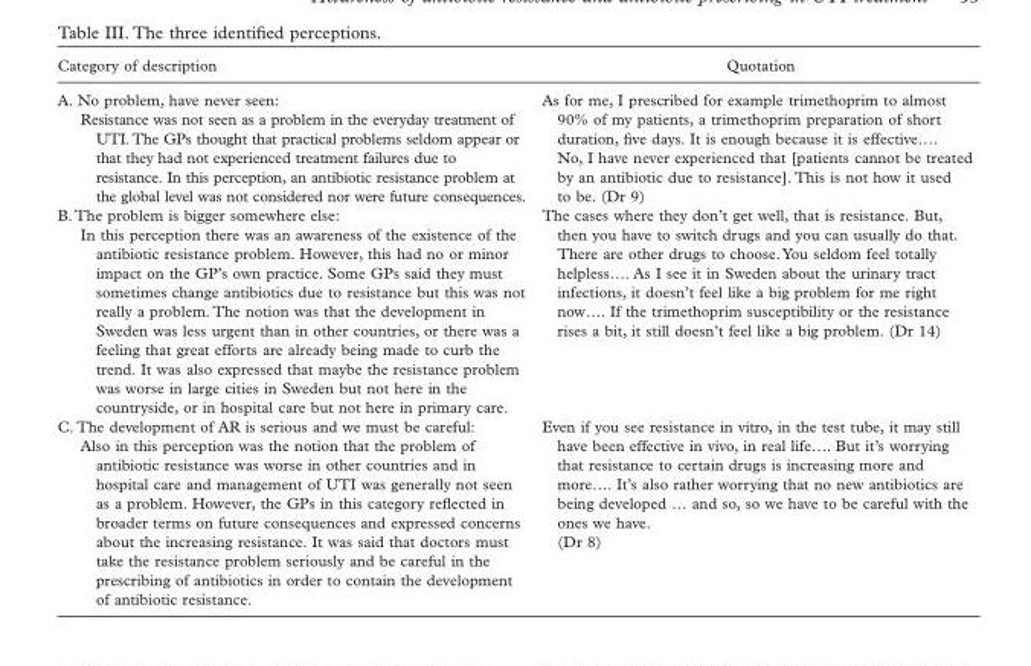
<table><thead><tr><td>Category of description</td><td>Quotation</td></tr></thead><tbody><tr><td>A. No problem, have never seen: Resistance was not seen as a problem in the everyday treatment of UTI. The GPs thought that practical problems seldom appear or that they had not experienced treatment failures due to resistance. In this perception, an antibiotic resistance problem at the global level was not considered nor were future consequences.</td><td>As for me, I prescribed for example trimethoprim to almost 90% of my patients, a trimethoprim preparation of short duration, fi ve days. It is enough because it is effective … . No, I have never experienced that [patients cannot be treated by an antibiotic due to resistance]. This is not how it used to be. (Dr 9)</td></tr><tr><td>B. The problem is bigger somewhere else: In this perception there was an awareness of the existence of the antibiotic resistance problem. However, this had no or minor impact on the GP ’ s own practice. Some GPs said they must sometimes change antibiotics due to resistance but this was not really a problem. The notion was that the development in Sweden was less urgent than in other countries, or there was a feeling that great efforts are already being made to curb the trend. It was also expressed that maybe the resistance problem was worse in large cities in Sweden but not here in the countryside, or in hospital care but not here in primary care.</td><td>The cases where they don ’ t get well, that is resistance. But, then you have to switch drugs and you can usually do that. There are other drugs to choose. You seldom feel totally helpless … . As I see it in Sweden about the urinary tract infections, it doesn ’ t feel like a big problem for me right now … . If the trimethoprim susceptibility or the resistance rises a bit, it still doesn ’ t feel like a big problem. (Dr 14)</td></tr><tr><td>C. The development of AR is serious and we must be careful: Also in this perception was the notion that the problem of antibiotic resistance was worse in other countries and in hospital care and management of UTI was generally not seen as a problem. However, the GPs in this category refl ected in broader terms on future consequences and expressed concerns about the increasing resistance. It was said that doctors must take the resistance problem seriously and be careful in the prescribing of antibiotics in order to contain the development of antibiotic resistance.</td><td>Even if you see resistance in vitro, in the test tube, it may still have been effective in vivo, in real life … . But it ’ s worrying that resistance to certain drugs is increasing more and more … . It ’ s also rather worrying that no new antibiotics are being developed … and so, so we have to be careful with the ones we have. (Dr 8)</td></tr></tbody></table>